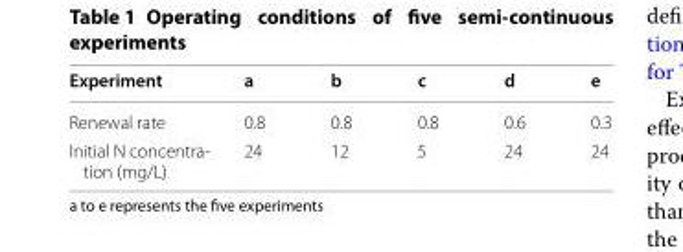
<table><thead><tr><td>Experiment</td><td>a</td><td>b</td><td>c</td><td>d</td><td>e</td></tr></thead><tbody><tr><td>Renewal rate</td><td>0.8</td><td>0.8</td><td>0.8</td><td>0.6</td><td>0.3</td></tr><tr><td>Initial N concentra- tion (mg/L)</td><td>24</td><td>12</td><td>5</td><td>24</td><td>24</td></tr></tbody></table>